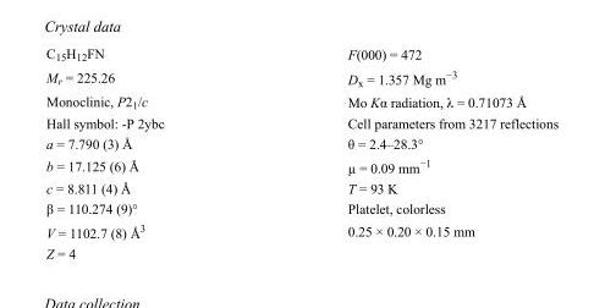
<table><tbody><tr><td>C<sub>15</sub>H<sub>12</sub>FN</td><td>F(000) = 472</td></tr><tr><td>M<sub>r</sub> = 225.26</td><td>D<sub>x</sub> = 1.357 Mg m<sup>−3</sup></td></tr><tr><td>Monoclinic, P2<sub>1</sub>/c</td><td>Mo Kα radiation, λ = 0.71073 Å</td></tr><tr><td>Hall symbol: -P 2ybc</td><td>Cell parameters from 3217 reflections</td></tr><tr><td>a = 7.790 (3) Å</td><td>θ = 2.4–28.3°</td></tr><tr><td>b = 17.125 (6) Å</td><td>µ = 0.09 mm<sup>−1</sup></td></tr><tr><td>c = 8.811 (4) Å</td><td>T = 93 K</td></tr><tr><td>β = 110.274 (9)°</td><td>Platelet, colorless</td></tr><tr><td>V = 1102.7 (8) Å<sup>3</sup></td><td>0.25 × 0.20 × 0.15 mm</td></tr><tr><td>Z = 4</td><td></td></tr></tbody></table>